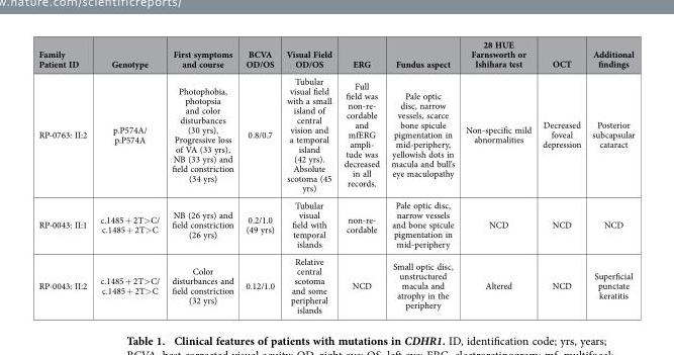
<table><thead><tr><td>Family Patient ID</td><td>Genotype</td><td>First symptoms and course</td><td>BCVA OD/OS</td><td>Visual Field OD/OS</td><td>ERG</td><td>Fundus aspect</td><td>28 HUE Farnsworth or Ishihara test</td><td>OCT</td><td>Additional findings</td></tr></thead><tbody><tr><td>RP-0763: II:2</td><td>p.P574A/ p.P574A</td><td>Photophobia, photopsia and color disturbances (30 yrs), Progressive loss of VA (33 yrs), NB (33 yrs) and field constriction (34 yrs)</td><td>0.8/0.7</td><td>Tubular visual field with a small island of central vision and a temporal island (42 yrs). Absolute scotoma (45 yrs)</td><td>Full field was non-re- cordable and mfERG ampli- tude was decreased in all records.</td><td>Pale optic disc, narrow vessels, scarce bone spicule pigmentation in mid-periphery, yellowish dots in macula and bull’s eye maculopathy</td><td>Non-specific mild abnormalities</td><td>Decreased foveal depression</td><td>Posterior subcapsular cataract</td></tr><tr><td>RP-0043: II:1</td><td>c.1485 + 2T&gt; C/ c.1485 + 2T&gt; C</td><td>NB (26 yrs) and field constriction (26 yrs)</td><td>0.2/1.0 (49 yrs)</td><td>Tubular visual field with temporal islands</td><td>non-re- cordable</td><td>Pale optic disc, narrow vessels and bone spicule pigmentation in mid-periphery</td><td>NCD</td><td>NCD</td><td>NCD</td></tr><tr><td>RP-0043: II:2</td><td>c.1485 + 2T&gt; C/ c.1485 + 2T&gt; C</td><td>Color disturbances and field constriction (32 yrs)</td><td>0.12/1.0</td><td>Relative central scotoma and some peripheral islands</td><td>NCD</td><td>Small optic disc, unstructured macula and atrophy in the periphery</td><td>Altered</td><td>NCD</td><td>Superficial punctate keratitis</td></tr></tbody></table>